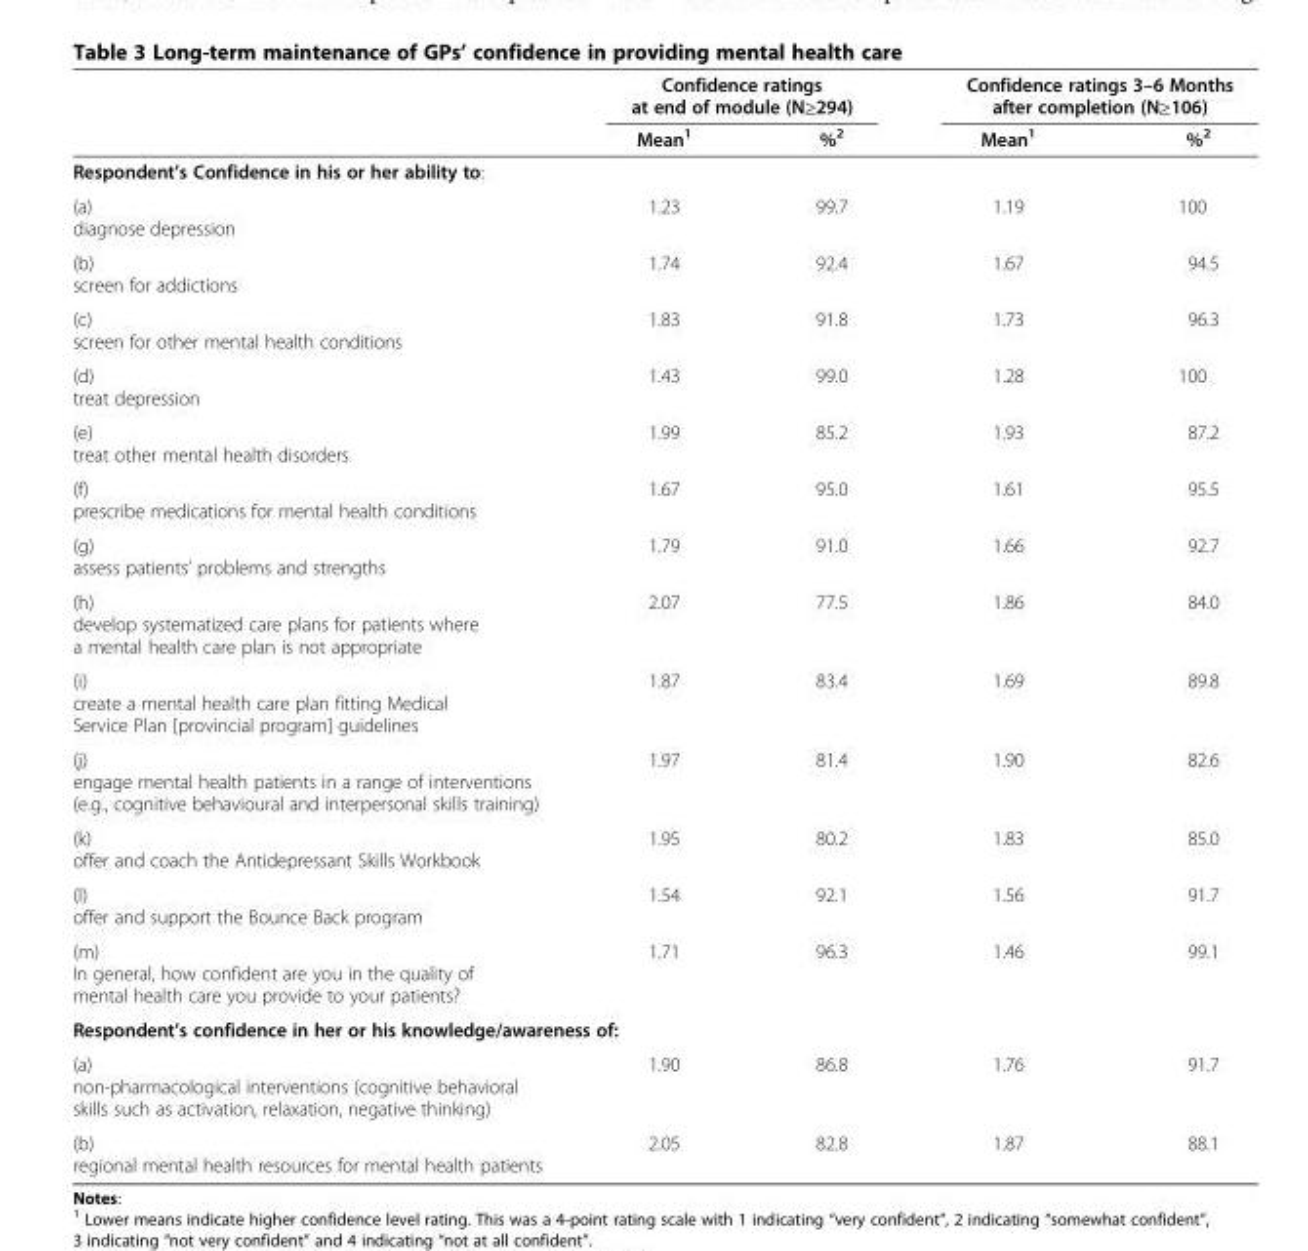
<table><thead><tr><td rowspan="2"></td><td colspan="2">Confidence ratings at end of module (N≥294)</td><td colspan="2">Confidence ratings 3–6 Months after completion (N≥106)</td></tr><tr><td>Mean<sup>1</sup></td><td>%<sup>2</sup></td><td>Mean<sup>1</sup></td><td>%<sup>2</sup></td></tr></thead><tbody><tr><td colspan="5">Respondent’s Confidence in his or her ability to:</td></tr><tr><td>(a) diagnose depression</td><td>1.23</td><td>99.7</td><td>1.19</td><td>100</td></tr><tr><td>(b) screen for addictions</td><td>1.74</td><td>92.4</td><td>1.67</td><td>94.5</td></tr><tr><td>(c) screen for other mental health conditions</td><td>1.83</td><td>91.8</td><td>1.73</td><td>96.3</td></tr><tr><td>(d) treat depression</td><td>1.43</td><td>99.0</td><td>1.28</td><td>100</td></tr><tr><td>(e) treat other mental health disorders</td><td>1.99</td><td>85.2</td><td>1.93</td><td>87.2</td></tr><tr><td>(f) prescribe medications for mental health conditions</td><td>1.67</td><td>95.0</td><td>1.61</td><td>95.5</td></tr><tr><td>(g) assess patients’ problems and strengths</td><td>1.79</td><td>91.0</td><td>1.66</td><td>92.7</td></tr><tr><td>(h) develop systematized care plans for patients where a mental health care plan is not appropriate</td><td>2.07</td><td>77.5</td><td>1.86</td><td>84.0</td></tr><tr><td>(i) create a mental health care plan fitting Medical Service Plan [provincial program] guidelines</td><td>1.87</td><td>83.4</td><td>1.69</td><td>89.8</td></tr><tr><td>(j) engage mental health patients in a range of interventions (e.g., cognitive behavioural and interpersonal skills training)</td><td>1.97</td><td>81.4</td><td>1.90</td><td>82.6</td></tr><tr><td>(k) offer and coach the Antidepressant Skills Workbook</td><td>1.95</td><td>80.2</td><td>1.83</td><td>85.0</td></tr><tr><td>(l) offer and support the Bounce Back program</td><td>1.54</td><td>92.1</td><td>1.56</td><td>91.7</td></tr><tr><td>(m) In general, how confident are you in the quality of mental health care you provide to your patients?</td><td>1.71</td><td>96.3</td><td>1.46</td><td>99.1</td></tr><tr><td colspan="5">Respondent’s confidence in her or his knowledge/awareness of:</td></tr><tr><td>(a) non-pharmacological interventions (cognitive behavioral skills such as activation, relaxation, negative thinking)</td><td>1.90</td><td>86.8</td><td>1.76</td><td>91.7</td></tr><tr><td>(b) regional mental health resources for mental health patients</td><td>2.05</td><td>82.8</td><td>1.87</td><td>88.1</td></tr></tbody></table>